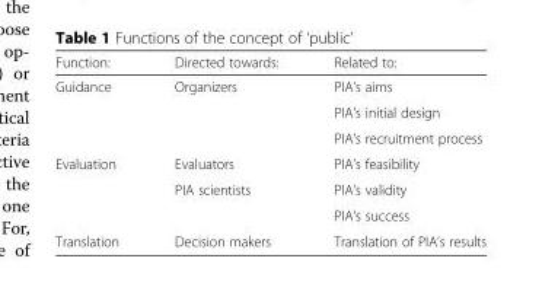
<table><thead><tr><td>Function:</td><td>Directed towards:</td><td>Related to:</td></tr></thead><tbody><tr><td rowspan="3">Guidance</td><td rowspan="3">Organizers</td><td>PIA’s aims</td></tr><tr><td>PIA’s initial design</td></tr><tr><td>PIA’s recruitment process</td></tr><tr><td rowspan="3">Evaluation</td><td>Evaluators</td><td>PIA’s feasibility</td></tr><tr><td rowspan="2">PIA scientists</td><td>PIA’s validity</td></tr><tr><td>PIA’s success</td></tr><tr><td>Translation</td><td>Decision makers</td><td>Translation of PIA’s results</td></tr></tbody></table>